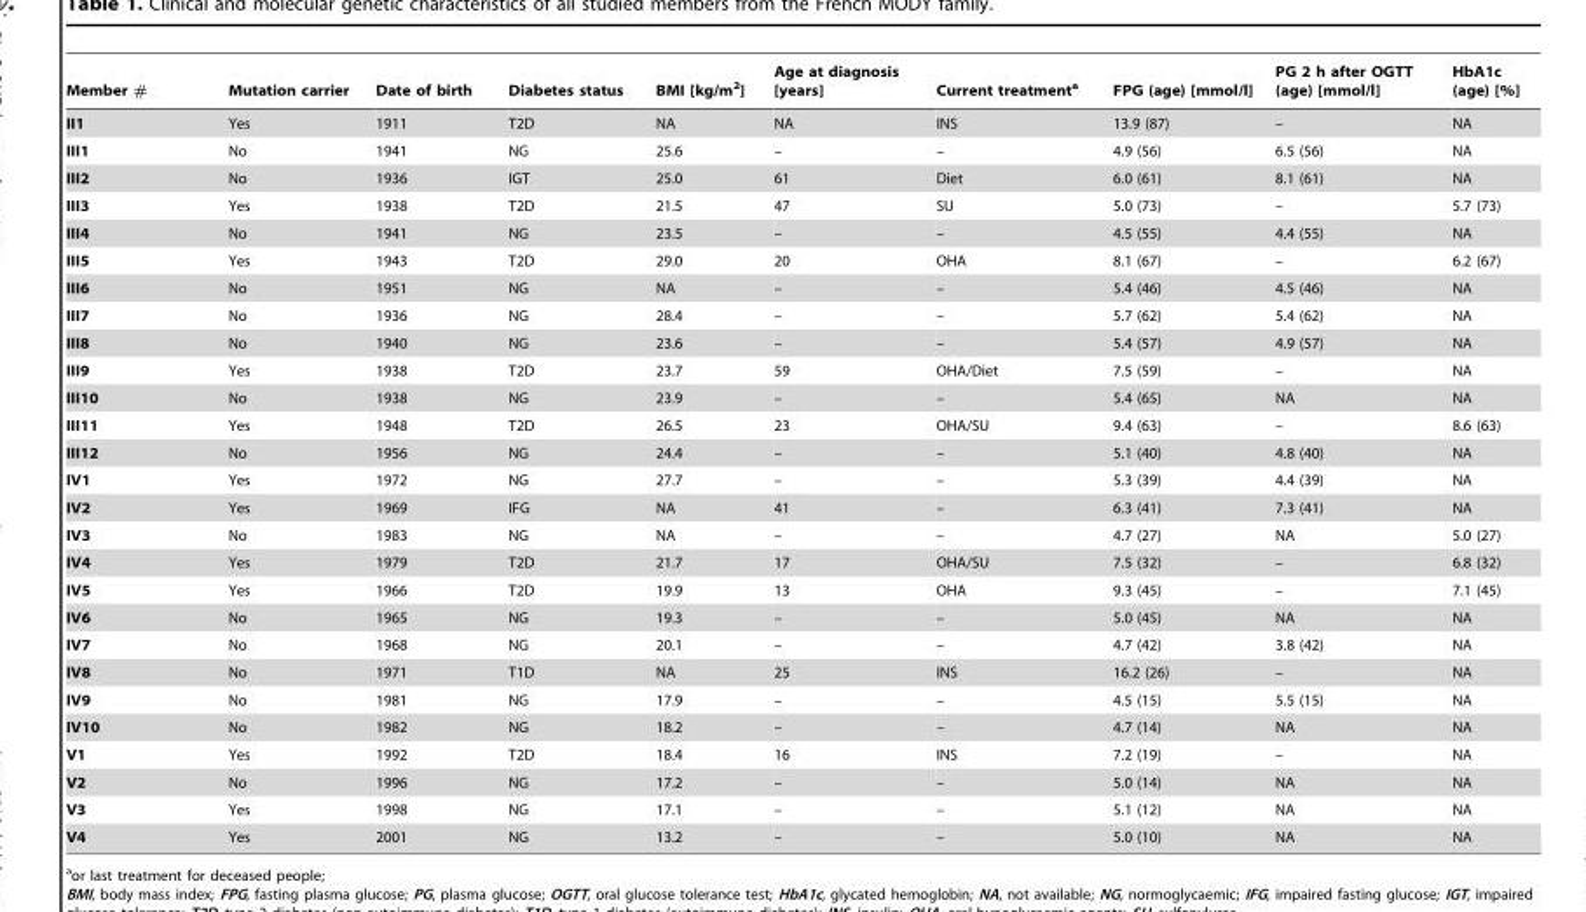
<table><thead><tr><td>Member #</td><td>Mutation carrier</td><td>Date of birth</td><td>Diabetes status</td><td>BMI [kg/m<sup>2</sup>]</td><td>Age at diagnosis [years]</td><td>Current treatment<sup>a</sup></td><td>FPG (age) [mmol/l]</td><td>PG 2 h after OGTT (age) [mmol/l]</td><td>HbA1c (age) [%]</td></tr></thead><tbody><tr><td>II1</td><td>Yes</td><td>1911</td><td>T2D</td><td>NA</td><td>NA</td><td>INS</td><td>13.9 (87)</td><td>–</td><td>NA</td></tr><tr><td>III1</td><td>No</td><td>1941</td><td>NG</td><td>25.6</td><td>–</td><td>–</td><td>4.9 (56)</td><td>6.5 (56)</td><td>NA</td></tr><tr><td>III2</td><td>No</td><td>1936</td><td>IGT</td><td>25.0</td><td>61</td><td>Diet</td><td>6.0 (61)</td><td>8.1 (61)</td><td>NA</td></tr><tr><td>III3</td><td>Yes</td><td>1938</td><td>T2D</td><td>21.5</td><td>47</td><td>SU</td><td>5.0 (73)</td><td>–</td><td>5.7 (73)</td></tr><tr><td>III4</td><td>No</td><td>1941</td><td>NG</td><td>23.5</td><td>–</td><td>–</td><td>4.5 (55)</td><td>4.4 (55)</td><td>NA</td></tr><tr><td>III5</td><td>Yes</td><td>1943</td><td>T2D</td><td>29.0</td><td>20</td><td>OHA</td><td>8.1 (67)</td><td>–</td><td>6.2 (67)</td></tr><tr><td>III6</td><td>No</td><td>1951</td><td>NG</td><td>NA</td><td>–</td><td>–</td><td>5.4 (46)</td><td>4.5 (46)</td><td>NA</td></tr><tr><td>III7</td><td>No</td><td>1936</td><td>NG</td><td>28.4</td><td>–</td><td>–</td><td>5.7 (62)</td><td>5.4 (62)</td><td>NA</td></tr><tr><td>III8</td><td>No</td><td>1940</td><td>NG</td><td>23.6</td><td>–</td><td>–</td><td>5.4 (57)</td><td>4.9 (57)</td><td>NA</td></tr><tr><td>III9</td><td>Yes</td><td>1938</td><td>T2D</td><td>23.7</td><td>59</td><td>OHA/Diet</td><td>7.5 (59)</td><td>–</td><td>NA</td></tr><tr><td>III10</td><td>No</td><td>1938</td><td>NG</td><td>23.9</td><td>–</td><td>–</td><td>5.4 (65)</td><td>NA</td><td>NA</td></tr><tr><td>III11</td><td>Yes</td><td>1948</td><td>T2D</td><td>26.5</td><td>23</td><td>OHA/SU</td><td>9.4 (63)</td><td>–</td><td>8.6 (63)</td></tr><tr><td>III12</td><td>No</td><td>1956</td><td>NG</td><td>24.4</td><td>–</td><td>–</td><td>5.1 (40)</td><td>4.8 (40)</td><td>NA</td></tr><tr><td>IV1</td><td>Yes</td><td>1972</td><td>NG</td><td>27.7</td><td>–</td><td>–</td><td>5.3 (39)</td><td>4.4 (39)</td><td>NA</td></tr><tr><td>IV2</td><td>Yes</td><td>1969</td><td>IFG</td><td>NA</td><td>41</td><td>–</td><td>6.3 (41)</td><td>7.3 (41)</td><td>NA</td></tr><tr><td>IV3</td><td>No</td><td>1983</td><td>NG</td><td>NA</td><td>–</td><td>–</td><td>4.7 (27)</td><td>NA</td><td>5.0 (27)</td></tr><tr><td>IV4</td><td>Yes</td><td>1979</td><td>T2D</td><td>21.7</td><td>17</td><td>OHA/SU</td><td>7.5 (32)</td><td>–</td><td>6.8 (32)</td></tr><tr><td>IV5</td><td>Yes</td><td>1966</td><td>T2D</td><td>19.9</td><td>13</td><td>OHA</td><td>9.3 (45)</td><td>–</td><td>7.1 (45)</td></tr><tr><td>IV6</td><td>No</td><td>1965</td><td>NG</td><td>19.3</td><td>–</td><td>–</td><td>5.0 (45)</td><td>NA</td><td>NA</td></tr><tr><td>IV7</td><td>No</td><td>1968</td><td>NG</td><td>20.1</td><td>–</td><td>–</td><td>4.7 (42)</td><td>3.8 (42)</td><td>NA</td></tr><tr><td>IV8</td><td>No</td><td>1971</td><td>T1D</td><td>NA</td><td>25</td><td>INS</td><td>16.2 (26)</td><td>–</td><td>NA</td></tr><tr><td>IV9</td><td>No</td><td>1981</td><td>NG</td><td>17.9</td><td>–</td><td>–</td><td>4.5 (15)</td><td>5.5 (15)</td><td>NA</td></tr><tr><td>IV10</td><td>No</td><td>1982</td><td>NG</td><td>18.2</td><td>–</td><td>–</td><td>4.7 (14)</td><td>NA</td><td>NA</td></tr><tr><td>V1</td><td>Yes</td><td>1992</td><td>T2D</td><td>18.4</td><td>16</td><td>INS</td><td>7.2 (19)</td><td>–</td><td>NA</td></tr><tr><td>V2</td><td>No</td><td>1996</td><td>NG</td><td>17.2</td><td>–</td><td>–</td><td>5.0 (14)</td><td>NA</td><td>NA</td></tr><tr><td>V3</td><td>Yes</td><td>1998</td><td>NG</td><td>17.1</td><td>–</td><td>–</td><td>5.1 (12)</td><td>NA</td><td>NA</td></tr><tr><td>V4</td><td>Yes</td><td>2001</td><td>NG</td><td>13.2</td><td>–</td><td>–</td><td>5.0 (10)</td><td>NA</td><td>NA</td></tr></tbody></table>